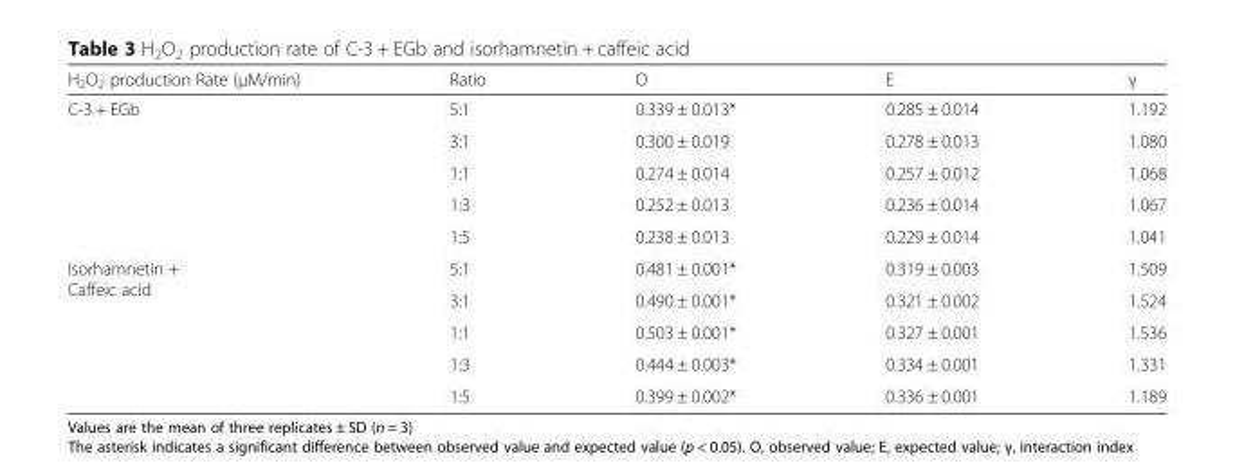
<table><thead><tr><td>H<sub>2</sub>O<sub>2</sub> production Rate (μM/min)</td><td>Ratio</td><td>O</td><td>E</td><td>γ</td></tr></thead><tbody><tr><td rowspan="5">C-3 + EGb</td><td>5:1</td><td>0.339 ± 0.013*</td><td>0.285 ± 0.014</td><td>1.192</td></tr><tr><td>3:1</td><td>0.300 ± 0.019</td><td>0.278 ± 0.013</td><td>1.080</td></tr><tr><td>1:1</td><td>0.274 ± 0.014</td><td>0.257 ± 0.012</td><td>1.068</td></tr><tr><td>1:3</td><td>0.252 ± 0.013</td><td>0.236 ± 0.014</td><td>1.067</td></tr><tr><td>1:5</td><td>0.238 ± 0.013</td><td>0.229 ± 0.014</td><td>1.041</td></tr><tr><td rowspan="5">Isorhamnetin + Caffeic acid</td><td>5:1</td><td>0.481 ± 0.001*</td><td>0.319 ± 0.003</td><td>1.509</td></tr><tr><td>3:1</td><td>0.490 ± 0.001*</td><td>0.321 ± 0.002</td><td>1.524</td></tr><tr><td>1:1</td><td>0.503 ± 0.001*</td><td>0.327 ± 0.001</td><td>1.536</td></tr><tr><td>1:3</td><td>0.444 ± 0.003*</td><td>0.334 ± 0.001</td><td>1.331</td></tr><tr><td>1:5</td><td>0.399 ± 0.002*</td><td>0.336 ± 0.001</td><td>1.189</td></tr></tbody></table>